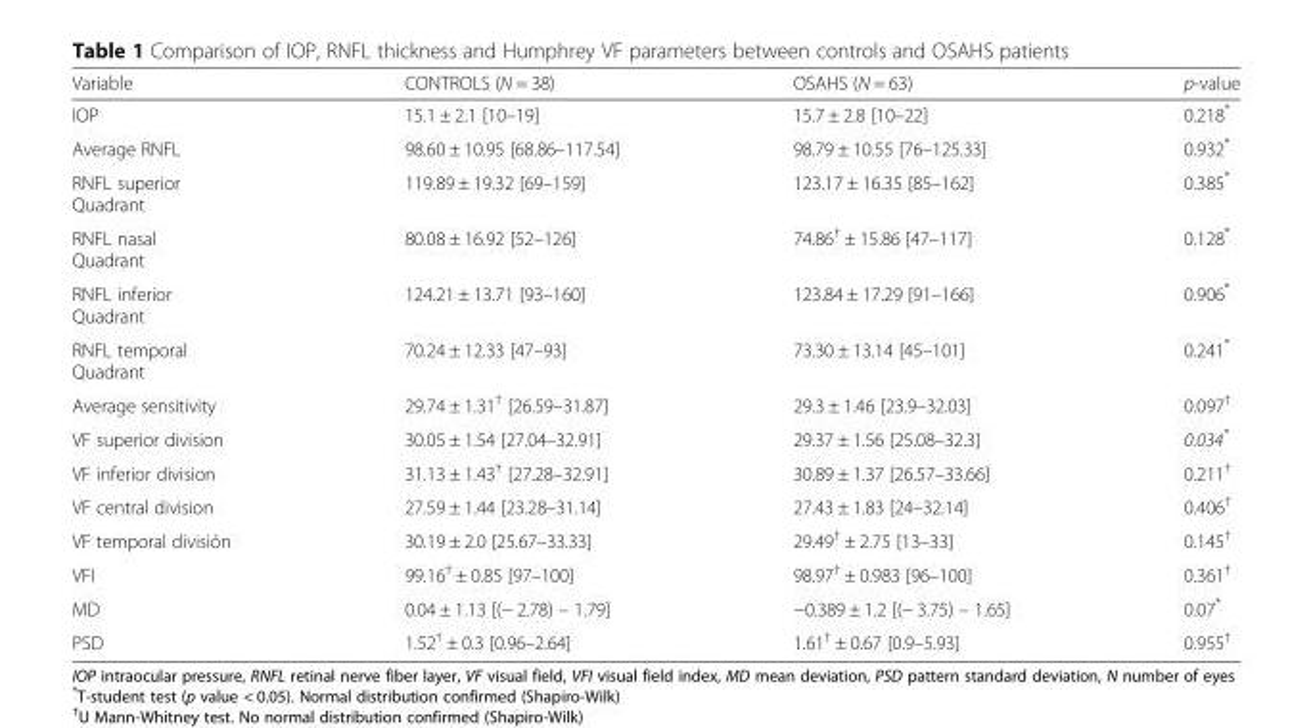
<table><thead><tr><td>Variable</td><td>CONTROLS (N = 38)</td><td>OSAHS (N = 63)</td><td>p-value</td></tr></thead><tbody><tr><td>IOP</td><td>15.1 ± 2.1 [10–19]</td><td>15.7 ± 2.8 [10–22]</td><td>0.218*</td></tr><tr><td>Average RNFL</td><td>98.60 ± 10.95 [68.86–117.54]</td><td>98.79 ± 10.55 [76–125.33]</td><td>0.932*</td></tr><tr><td>RNFL superior Quadrant</td><td>119.89 ± 19.32 [69–159]</td><td>123.17 ± 16.35 [85–162]</td><td>0.385*</td></tr><tr><td>RNFL nasal Quadrant</td><td>80.08 ± 16.92 [52–126]</td><td>74.86<sup>†</sup> ± 15.86 [47–117]</td><td>0.128*</td></tr><tr><td>RNFL inferior Quadrant</td><td>124.21 ± 13.71 [93–160]</td><td>123.84 ± 17.29 [91–166]</td><td>0.906*</td></tr><tr><td>RNFL temporal Quadrant</td><td>70.24 ± 12.33 [47–93]</td><td>73.30 ± 13.14 [45–101]</td><td>0.241*</td></tr><tr><td>Average sensitivity</td><td>29.74 ± 1.31<sup>†</sup> [26.59–31.87]</td><td>29.3 ± 1.46 [23.9–32.03]</td><td>0.097<sup>†</sup></td></tr><tr><td>VF superior division</td><td>30.05 ± 1.54 [27.04–32.91]</td><td>29.37 ± 1.56 [25.08–32.3]</td><td>0.034*</td></tr><tr><td>VF inferior division</td><td>31.13 ± 1.43<sup>†</sup> [27.28–32.91]</td><td>30.89 ± 1.37 [26.57–33.66]</td><td>0.211<sup>†</sup></td></tr><tr><td>VF central division</td><td>27.59 ± 1.44 [23.28–31.14]</td><td>27.43 ± 1.83 [24–32.14]</td><td>0.406<sup>†</sup></td></tr><tr><td>VF temporal división</td><td>30.19 ± 2.0 [25.67–33.33]</td><td>29.49<sup>†</sup> ± 2.75 [13–33]</td><td>0.145<sup>†</sup></td></tr><tr><td>VFI</td><td>99.16<sup>†</sup> ± 0.85 [97–100]</td><td>98.97<sup>†</sup> ± 0.983 [96–100]</td><td>0.361<sup>†</sup></td></tr><tr><td>MD</td><td>0.04 ± 1.13 [(− 2.78) – 1.79]</td><td>−0.389 ± 1.2 [(− 3.75) – 1.65]</td><td>0.07*</td></tr><tr><td>PSD</td><td>1.52<sup>†</sup> ± 0.3 [0.96–2.64]</td><td>1.61<sup>†</sup> ± 0.67 [0.9–5.93]</td><td>0.955<sup>†</sup></td></tr></tbody></table>